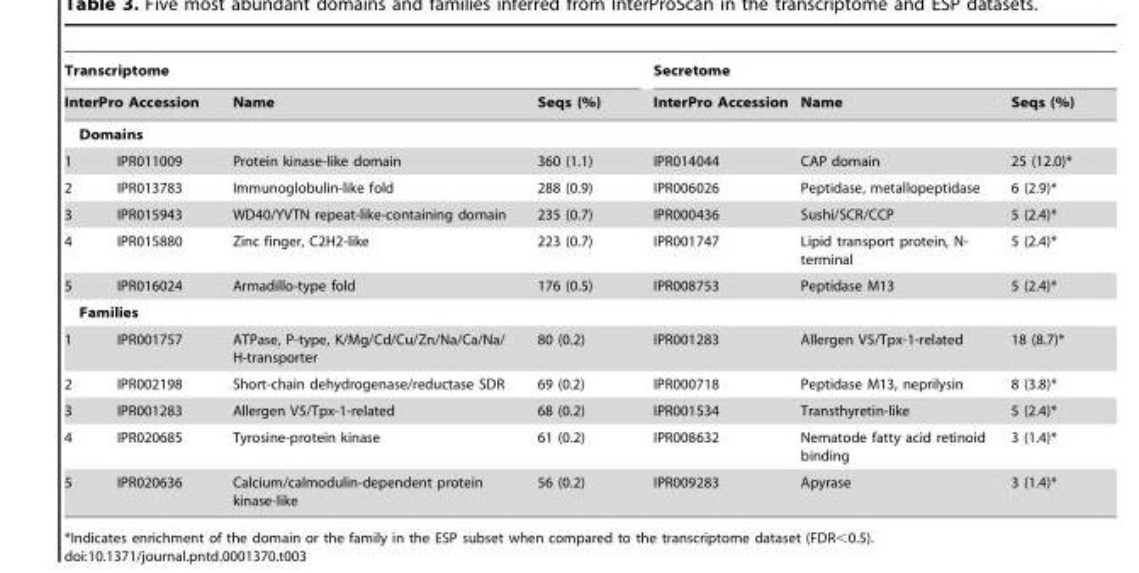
<table><thead><tr><td colspan="4">Transcriptome</td><td colspan="3">Secretome</td></tr><tr><td colspan="2">InterPro Accession</td><td>Name</td><td>Seqs (%)</td><td>InterPro Accession</td><td>Name</td><td>Seqs (%)</td></tr><tr><td colspan="7">Domains</td></tr><tr><td>1</td><td>IPR011009</td><td>Protein kinase-like domain</td><td>360 (1.1)</td><td>IPR014044</td><td>CAP domain</td><td>25 (12.0)*</td></tr></thead><tbody><tr><td>2</td><td>IPR013783</td><td>Immunoglobulin-like fold</td><td>288 (0.9)</td><td>IPR006026</td><td>Peptidase, metallopeptidase</td><td>6 (2.9)*</td></tr><tr><td>3</td><td>IPR015943</td><td>WD40/YVTN repeat-like-containing domain</td><td>235 (0.7)</td><td>IPR000436</td><td>Sushi/SCR/CCP</td><td>5 (2.4)*</td></tr><tr><td>4</td><td>IPR015880</td><td>Zinc finger, C2H2-like</td><td>223 (0.7)</td><td>IPR001747</td><td>Lipid transport protein, N- terminal</td><td>5 (2.4)*</td></tr><tr><td>5</td><td>IPR016024</td><td>Armadillo-type fold</td><td>176 (0.5)</td><td>IPR008753</td><td>Peptidase M13</td><td>5 (2.4)*</td></tr><tr><td colspan="7">Families</td></tr><tr><td>1</td><td>IPR001757</td><td>ATPase, P-type, K/Mg/Cd/Cu/Zn/Na/Ca/Na/ H-transporter</td><td>80 (0.2)</td><td>IPR001283</td><td>Allergen V5/Tpx-1-related</td><td>18 (8.7)*</td></tr><tr><td>2</td><td>IPR002198</td><td>Short-chain dehydrogenase/reductase SDR</td><td>69 (0.2)</td><td>IPR000718</td><td>Peptidase M13, neprilysin</td><td>8 (3.8)*</td></tr><tr><td>3</td><td>IPR001283</td><td>Allergen V5/Tpx-1-related</td><td>68 (0.2)</td><td>IPR001534</td><td>Transthyretin-like</td><td>5 (2.4)*</td></tr><tr><td>4</td><td>IPR020685</td><td>Tyrosine-protein kinase</td><td>61 (0.2)</td><td>IPR008632</td><td>Nematode fatty acid retinoid binding</td><td>3 (1.4)*</td></tr><tr><td>5</td><td>IPR020636</td><td>Calcium/calmodulin-dependent protein kinase-like</td><td>56 (0.2)</td><td>IPR009283</td><td>Apyrase</td><td>3 (1.4)*</td></tr></tbody></table>